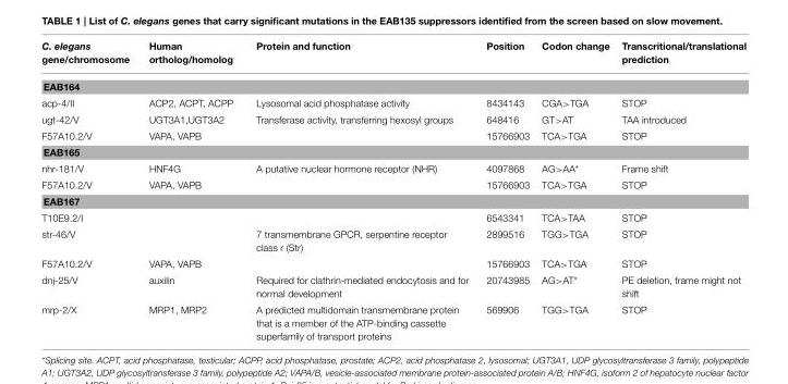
<table><thead><tr><td>C. elegans gene/chromosome</td><td>Human ortholog/homolog</td><td>Protein and function</td><td>Position</td><td>Codon change</td><td>Transcritional/translational prediction</td></tr></thead><tbody><tr><td colspan="6">EAB164</td></tr><tr><td>acp-4/II</td><td>ACP2, ACPT, ACPP</td><td>Lysosomal acid phosphatase activity</td><td>8434143</td><td>CGA&gt;TGA</td><td>STOP</td></tr><tr><td>ugt-42/V</td><td>UGT3A1,UGT3A2</td><td>Transferase activity, transferring hexosyl groups</td><td>648416</td><td>GT&gt;AT</td><td>TAA introduced</td></tr><tr><td>F57A10.2/V</td><td>VAPA, VAPB</td><td></td><td>15766903</td><td>TCA&gt;TGA</td><td>STOP</td></tr><tr><td colspan="6">EAB165</td></tr><tr><td>nhr-181/V</td><td>HNF4G</td><td>A putative nuclear hormone receptor (NHR)</td><td>4097868</td><td>AG&gt;AA*</td><td>Frame shift</td></tr><tr><td>F57A10.2/V</td><td>VAPA, VAPB</td><td></td><td>15766903</td><td>TCA&gt;TGA</td><td>STOP</td></tr><tr><td colspan="6">EAB167</td></tr><tr><td>T10E9.2/I</td><td></td><td></td><td>6543341</td><td>TCA&gt;TAA</td><td>STOP</td></tr><tr><td>str-46/V</td><td></td><td>7 transmembrane GPCR, serpentine receptor class r (Str)</td><td>2899516</td><td>TGG&gt;TGA</td><td>STOP</td></tr><tr><td>F57A10.2/V</td><td>VAPA, VAPB</td><td></td><td>15766903</td><td>TCA&gt;TGA</td><td>STOP</td></tr><tr><td>dnj-25/V</td><td>auxilin</td><td>Required for clathrin-mediated endocytosis and for normal development</td><td>20743985</td><td>AG&gt;AT*</td><td>PE deletion, frame might not shift</td></tr><tr><td>mrp-2/X</td><td>MRP1, MRP2</td><td>A predicted multidomain transmembrane protein that is a member of the ATP-binding cassette superfamily of transport proteins</td><td>569906</td><td>TGG&gt;TGA</td><td>STOP</td></tr></tbody></table>